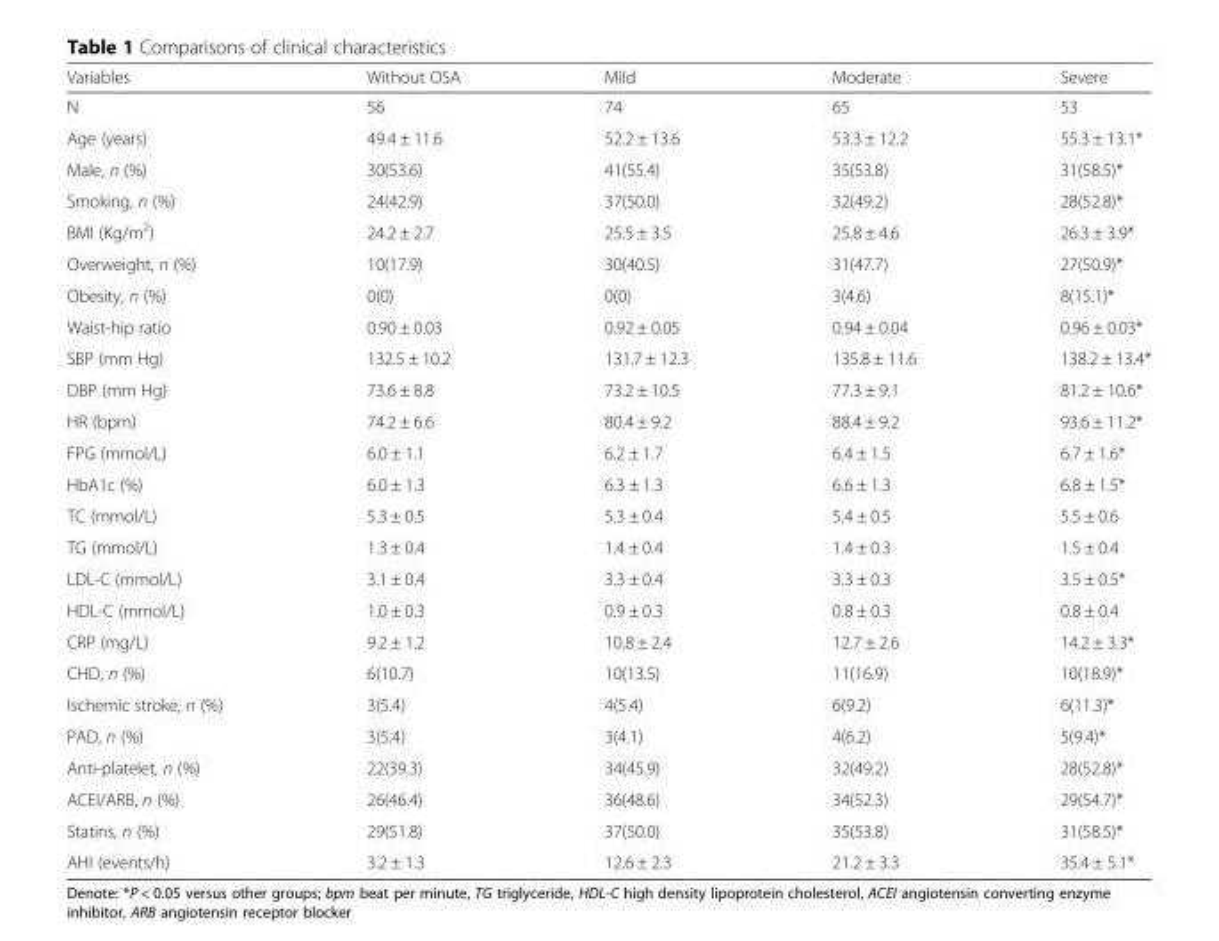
<table><thead><tr><td>Variables</td><td>Without OSA</td><td>Mild</td><td>Moderate</td><td>Severe</td></tr></thead><tbody><tr><td>N</td><td>56</td><td>74</td><td>65</td><td>53</td></tr><tr><td>Age (years)</td><td>49.4 ± 11.6</td><td>52.2 ± 13.6</td><td>53.3 ± 12.2</td><td>55.3 ± 13.1*</td></tr><tr><td>Male, n (%)</td><td>30(53.6)</td><td>41(55.4)</td><td>35(53.8)</td><td>31(58.5)*</td></tr><tr><td>Smoking, n (%)</td><td>24(42.9)</td><td>37(50.0)</td><td>32(49.2)</td><td>28(52.8)*</td></tr><tr><td>BMI (Kg/m<sup>2</sup>)</td><td>24.2 ± 2.7</td><td>25.5 ± 3.5</td><td>25.8 ± 4.6</td><td>26.3 ± 3.9*</td></tr><tr><td>Overweight, n (%)</td><td>10(17.9)</td><td>30(40.5)</td><td>31(47.7)</td><td>27(50.9)*</td></tr><tr><td>Obesity, n (%)</td><td>0(0)</td><td>0(0)</td><td>3(4.6)</td><td>8(15.1)*</td></tr><tr><td>Waist-hip ratio</td><td>0.90 ± 0.03</td><td>0.92 ± 0.05</td><td>0.94 ± 0.04</td><td>0.96 ± 0.03*</td></tr><tr><td>SBP (mm Hg)</td><td>132.5 ± 10.2</td><td>131.7 ± 12.3</td><td>135.8 ± 11.6</td><td>138.2 ± 13.4*</td></tr><tr><td>DBP (mm Hg)</td><td>73.6 ± 8.8</td><td>73.2 ± 10.5</td><td>77.3 ± 9.1</td><td>81.2 ± 10.6*</td></tr><tr><td>HR (bpm)</td><td>74.2 ± 6.6</td><td>80.4 ± 9.2</td><td>88.4 ± 9.2</td><td>93.6 ± 11.2*</td></tr><tr><td>FPG (mmol/L)</td><td>6.0 ± 1.1</td><td>6.2 ± 1.7</td><td>6.4 ± 1.5</td><td>6.7 ± 1.6*</td></tr><tr><td>HbA1c (%)</td><td>6.0 ± 1.3</td><td>6.3 ± 1.3</td><td>6.6 ± 1.3</td><td>6.8 ± 1.5*</td></tr><tr><td>TC (mmol/L)</td><td>5.3 ± 0.5</td><td>5.3 ± 0.4</td><td>5.4 ± 0.5</td><td>5.5 ± 0.6</td></tr><tr><td>TG (mmol/L)</td><td>1.3 ± 0.4</td><td>1.4 ± 0.4</td><td>1.4 ± 0.3</td><td>1.5 ± 0.4</td></tr><tr><td>LDL-C (mmol/L)</td><td>3.1 ± 0.4</td><td>3.3 ± 0.4</td><td>3.3 ± 0.3</td><td>3.5 ± 0.5*</td></tr><tr><td>HDL-C (mmol/L)</td><td>1.0 ± 0.3</td><td>0.9 ± 0.3</td><td>0.8 ± 0.3</td><td>0.8 ± 0.4</td></tr><tr><td>CRP (mg/L)</td><td>9.2 ± 1.2</td><td>10.8 ± 2.4</td><td>12.7 ± 2.6</td><td>14.2 ± 3.3*</td></tr><tr><td>CHD, n (%)</td><td>6(10.7)</td><td>10(13.5)</td><td>11(16.9)</td><td>10(18.9)*</td></tr><tr><td>Ischemic stroke, n (%)</td><td>3(5.4)</td><td>4(5.4)</td><td>6(9.2)</td><td>6(11.3)*</td></tr><tr><td>PAD, n (%)</td><td>3(5.4)</td><td>3(4.1)</td><td>4(6.2)</td><td>5(9.4)*</td></tr><tr><td>Anti-platelet, n (%)</td><td>22(39.3)</td><td>34(45.9)</td><td>32(49.2)</td><td>28(52.8)*</td></tr><tr><td>ACEI/ARB, n (%)</td><td>26(46.4)</td><td>36(48.6)</td><td>34(52.3)</td><td>29(54.7)*</td></tr><tr><td>Statins, n (%)</td><td>29(51.8)</td><td>37(50.0)</td><td>35(53.8)</td><td>31(58.5)*</td></tr><tr><td>AHI (events/h)</td><td>3.2 ± 1.3</td><td>12.6 ± 2.3</td><td>21.2 ± 3.3</td><td>35.4 ± 5.1*</td></tr></tbody></table>